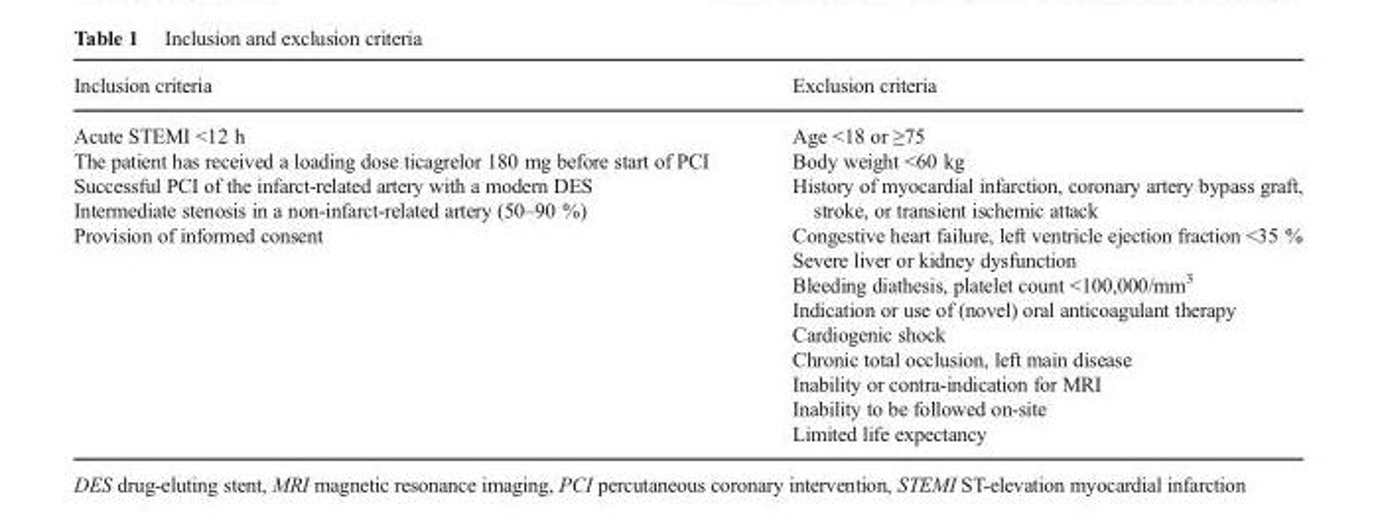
<table><thead><tr><td>Inclusion criteria</td><td>Exclusion criteria</td></tr></thead><tbody><tr><td>Acute STEMI &lt;12 h The patient has received a loading dose ticagrelor 180 mg before start of PCI Successful PCI of the infarct-related artery with a modern DES Intermediate stenosis in a non-infarct-related artery (50–90 %) Provision of informed consent</td><td>Age &lt;18 or ≥75 Body weight &lt;60 kg History of myocardial infarction, coronary artery bypass graft, stroke, or transient ischemic attack Congestive heart failure, left ventricle ejection fraction &lt;35 % Severe liver or kidney dysfunction Bleeding diathesis, platelet count &lt;100,000/mm<sup>3</sup> Indication or use of (novel) oral anticoagulant therapy Cardiogenic shock Chronic total occlusion, left main disease Inability or contra-indication for MRI Inability to be followed on-site Limited life expectancy</td></tr></tbody></table>